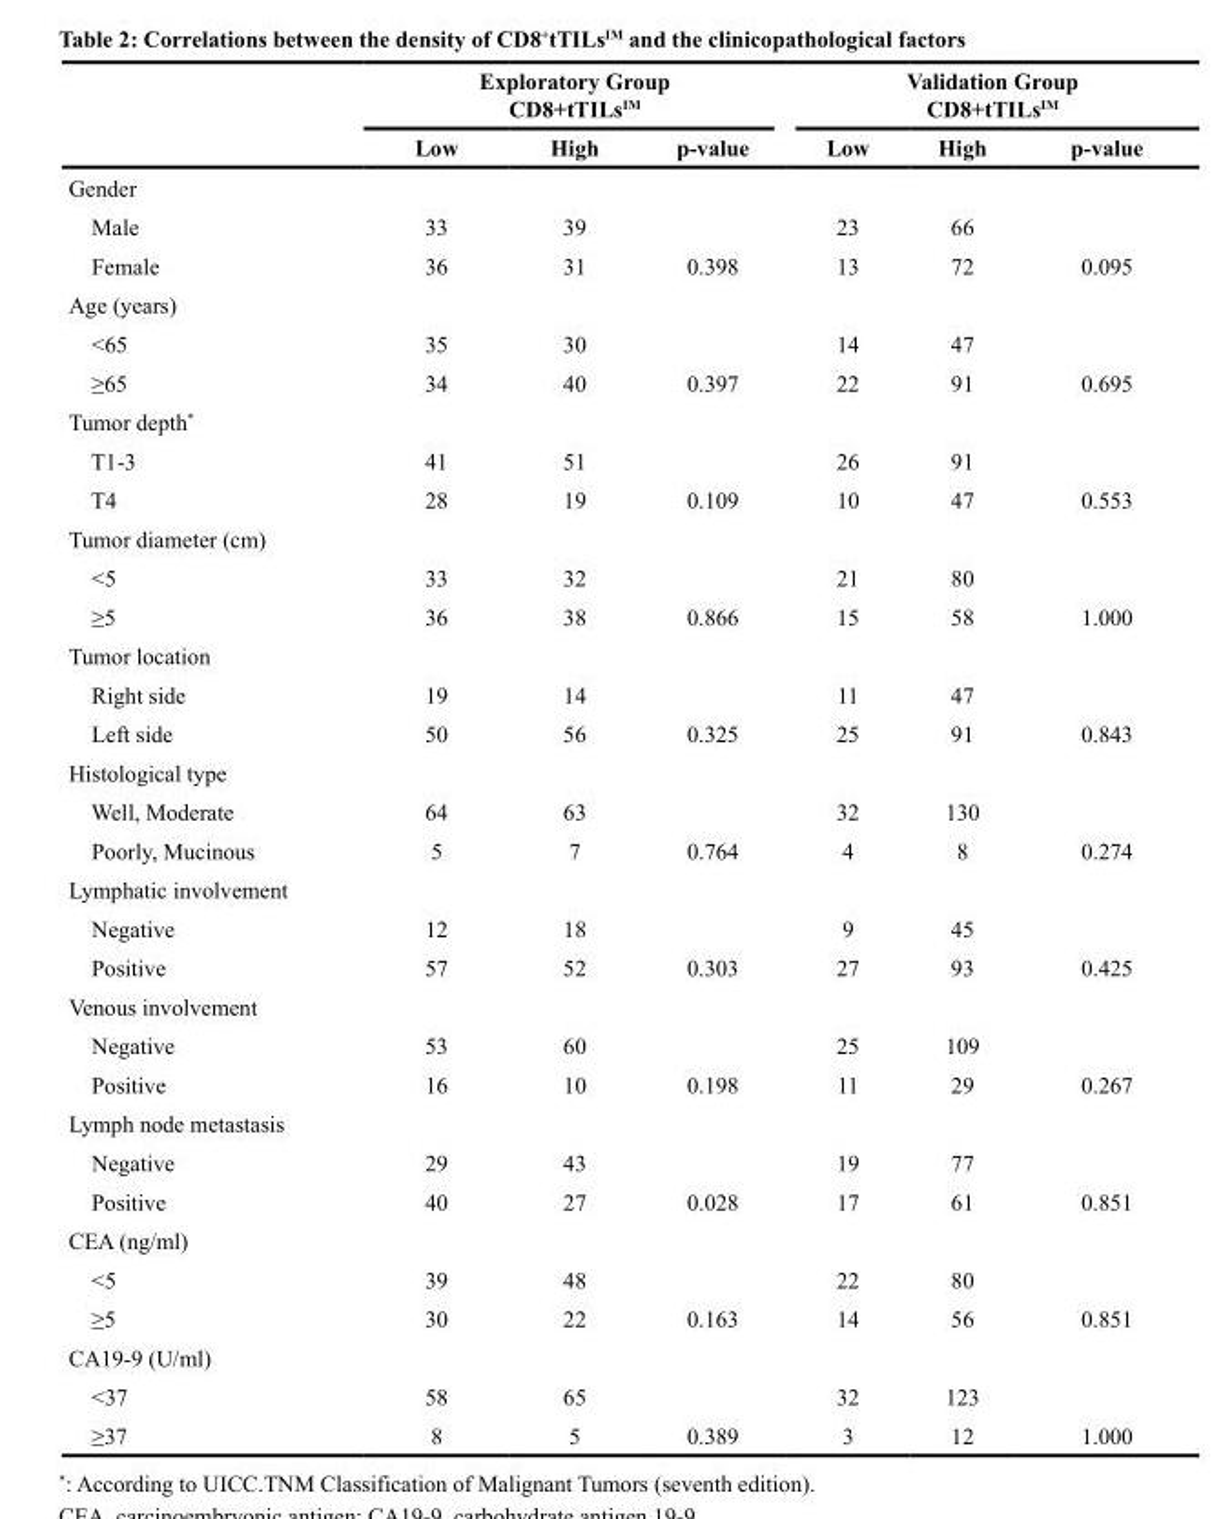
<table><thead><tr><td rowspan="2"></td><td colspan="3">Exploratory Group CD8+tTILs<sup>IM</sup></td><td colspan="3">Validation Group CD8+tTILs<sup>IM</sup></td></tr><tr><td>Low</td><td>High</td><td>p-value</td><td>Low</td><td>High</td><td>p-value</td></tr></thead><tbody><tr><td colspan="7">Gender</td></tr><tr><td>Male</td><td>33</td><td>39</td><td></td><td>23</td><td>66</td><td></td></tr><tr><td>Female</td><td>36</td><td>31</td><td>0.398</td><td>13</td><td>72</td><td>0.095</td></tr><tr><td colspan="7">Age (years)</td></tr><tr><td>&lt;65</td><td>35</td><td>30</td><td></td><td>14</td><td>47</td><td></td></tr><tr><td>≥65</td><td>34</td><td>40</td><td>0.397</td><td>22</td><td>91</td><td>0.695</td></tr><tr><td colspan="7">Tumor depth*</td></tr><tr><td>T1-3</td><td>41</td><td>51</td><td></td><td>26</td><td>91</td><td></td></tr><tr><td>T4</td><td>28</td><td>19</td><td>0.109</td><td>10</td><td>47</td><td>0.553</td></tr><tr><td colspan="7">Tumor diameter (cm)</td></tr><tr><td>&lt;5</td><td>33</td><td>32</td><td></td><td>21</td><td>80</td><td></td></tr><tr><td>≥5</td><td>36</td><td>38</td><td>0.866</td><td>15</td><td>58</td><td>1.000</td></tr><tr><td colspan="7">Tumor location</td></tr><tr><td>Right side</td><td>19</td><td>14</td><td></td><td>11</td><td>47</td><td></td></tr><tr><td>Left side</td><td>50</td><td>56</td><td>0.325</td><td>25</td><td>91</td><td>0.843</td></tr><tr><td colspan="7">Histological type</td></tr><tr><td>Well, Moderate</td><td>64</td><td>63</td><td></td><td>32</td><td>130</td><td></td></tr><tr><td>Poorly, Mucinous</td><td>5</td><td>7</td><td>0.764</td><td>4</td><td>8</td><td>0.274</td></tr><tr><td colspan="7">Lymphatic involvement</td></tr><tr><td>Negative</td><td>12</td><td>18</td><td></td><td>9</td><td>45</td><td></td></tr><tr><td>Positive</td><td>57</td><td>52</td><td>0.303</td><td>27</td><td>93</td><td>0.425</td></tr><tr><td colspan="7">Venous involvement</td></tr><tr><td>Negative</td><td>53</td><td>60</td><td></td><td>25</td><td>109</td><td></td></tr><tr><td>Positive</td><td>16</td><td>10</td><td>0.198</td><td>11</td><td>29</td><td>0.267</td></tr><tr><td colspan="7">Lymph node metastasis</td></tr><tr><td>Negative</td><td>29</td><td>43</td><td></td><td>19</td><td>77</td><td></td></tr><tr><td>Positive</td><td>40</td><td>27</td><td>0.028</td><td>17</td><td>61</td><td>0.851</td></tr><tr><td colspan="7">CEA (ng/ml)</td></tr><tr><td>&lt;5</td><td>39</td><td>48</td><td></td><td>22</td><td>80</td><td></td></tr><tr><td>≥5</td><td>30</td><td>22</td><td>0.163</td><td>14</td><td>56</td><td>0.851</td></tr><tr><td colspan="7">CA19-9 (U/ml)</td></tr><tr><td>&lt;37</td><td>58</td><td>65</td><td></td><td>32</td><td>123</td><td></td></tr><tr><td>≥37</td><td>8</td><td>5</td><td>0.389</td><td>3</td><td>12</td><td>1.000</td></tr></tbody></table>